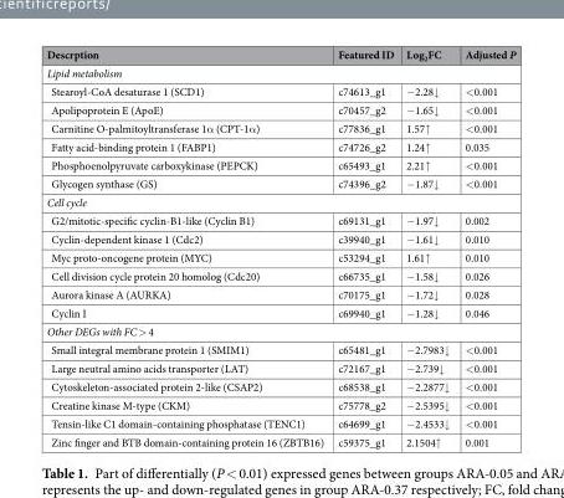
<table><thead><tr><td>Descrption</td><td>Featured ID</td><td>Log<sub>2</sub>FC</td><td>Adjusted P</td></tr></thead><tbody><tr><td colspan="4">Lipid metabolism</td></tr><tr><td>Stearoyl-CoA desaturase 1 (SCD1)</td><td>c74613_g1</td><td>−2.28↓</td><td>&lt;0.001</td></tr><tr><td>Apolipoprotein E (ApoE)</td><td>c70457_g2</td><td>−1.65↓</td><td>&lt;0.001</td></tr><tr><td>Carnitine O-palmitoyltransferase 1α (CPT-1α)</td><td>c77836_g1</td><td>1.57↑</td><td>&lt;0.001</td></tr><tr><td>Fatty acid-binding protein 1 (FABP1)</td><td>c74726_g2</td><td>1.24↑</td><td>0.035</td></tr><tr><td>Phosphoenolpyruvate carboxykinase (PEPCK)</td><td>c65493_g1</td><td>2.21↑</td><td>&lt;0.001</td></tr><tr><td>Glycogen synthase (GS)</td><td>c74396_g2</td><td>−1.87↓</td><td>&lt;0.001</td></tr><tr><td colspan="4">Cell cycle</td></tr><tr><td>G2/mitotic-specific cyclin-B1-like (Cyclin B1)</td><td>c69131_g1</td><td>−1.97↓</td><td>0.002</td></tr><tr><td>Cyclin-dependent kinase 1 (Cdc2)</td><td>c39940_g1</td><td>−1.61↓</td><td>0.010</td></tr><tr><td>Myc proto-oncogene protein (MYC)</td><td>c53294_g1</td><td>1.61↑</td><td>0.010</td></tr><tr><td>Cell division cycle protein 20 homolog (Cdc20)</td><td>c66735_g1</td><td>−1.58↓</td><td>0.026</td></tr><tr><td>Aurora kinase A (AURKA)</td><td>c70175_g1</td><td>−1.72↓</td><td>0.028</td></tr><tr><td>Cyclin I</td><td>c69940_g1</td><td>−1.28↓</td><td>0.046</td></tr><tr><td colspan="4">Other DEGs with FC &gt; 4</td></tr><tr><td>Small integral membrane protein 1 (SMIM1)</td><td>c65481_g1</td><td>−2.7983↓</td><td>&lt;0.001</td></tr><tr><td>Large neutral amino acids transporter (LAT)</td><td>c72167_g1</td><td>−2.739↓</td><td>&lt;0.001</td></tr><tr><td>Cytoskeleton-associated protein 2-like (CSAP2)</td><td>c68538_g1</td><td>−2.2877↓</td><td>&lt;0.001</td></tr><tr><td>Creatine kinase M-type (CKM)</td><td>c75778_g2</td><td>−2.5395↓</td><td>&lt;0.001</td></tr><tr><td>Tensin-like C1 domain-containing phosphatase (TENC1)</td><td>c64699_g1</td><td>−2.4533↓</td><td>&lt;0.001</td></tr><tr><td>Zinc finger and BTB domain-containing protein 16 (ZBTB16)</td><td>c59375_g1</td><td>2.1504↑</td><td>0.001</td></tr></tbody></table>